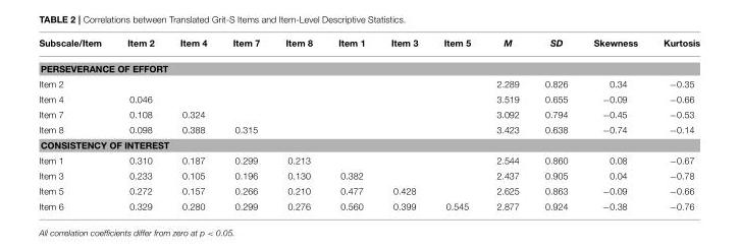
<table><thead><tr><td>Subscale/Item</td><td>Item 2</td><td>Item 4</td><td>Item 7</td><td>Item 8</td><td>Item 1</td><td>Item 3</td><td>Item 5</td><td>M</td><td>SD</td><td>Skewness</td><td>Kurtosis</td></tr></thead><tbody><tr><td colspan="12">PERSEVERANCE OF EFFORT</td></tr><tr><td>Item 2</td><td></td><td></td><td></td><td></td><td></td><td></td><td></td><td>2.289</td><td>0.826</td><td>0.34</td><td>−0.35</td></tr><tr><td>Item 4</td><td>0.046</td><td></td><td></td><td></td><td></td><td></td><td></td><td>3.519</td><td>0.655</td><td>−0.09</td><td>−0.66</td></tr><tr><td>Item 7</td><td>0.108</td><td>0.324</td><td></td><td></td><td></td><td></td><td></td><td>3.092</td><td>0.794</td><td>−0.45</td><td>−0.53</td></tr><tr><td>Item 8</td><td>0.098</td><td>0.388</td><td>0.315</td><td></td><td></td><td></td><td></td><td>3.423</td><td>0.638</td><td>−0.74</td><td>−0.14</td></tr><tr><td colspan="12">CONSISTENCY OF INTEREST</td></tr><tr><td>Item 1</td><td>0.310</td><td>0.187</td><td>0.299</td><td>0.213</td><td></td><td></td><td></td><td>2.544</td><td>0.860</td><td>0.08</td><td>−0.67</td></tr><tr><td>Item 3</td><td>0.233</td><td>0.105</td><td>0.196</td><td>0.130</td><td>0.382</td><td></td><td></td><td>2.437</td><td>0.905</td><td>0.04</td><td>−0.78</td></tr><tr><td>Item 5</td><td>0.272</td><td>0.157</td><td>0.266</td><td>0.210</td><td>0.477</td><td>0.428</td><td></td><td>2.625</td><td>0.863</td><td>−0.09</td><td>−0.66</td></tr><tr><td>Item 6</td><td>0.329</td><td>0.280</td><td>0.299</td><td>0.276</td><td>0.560</td><td>0.399</td><td>0.545</td><td>2.877</td><td>0.924</td><td>−0.38</td><td>−0.76</td></tr></tbody></table>